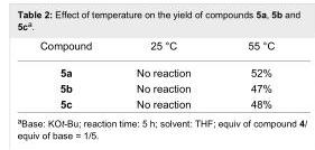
<table><tbody><tr><td>Compound</td><td>25 °C</td><td>55 °C</td></tr><tr><td>5a</td><td>No reaction</td><td>52%</td></tr><tr><td>5b</td><td>No reaction</td><td>47%</td></tr><tr><td>5c</td><td>No reaction</td><td>48%</td></tr></tbody></table>